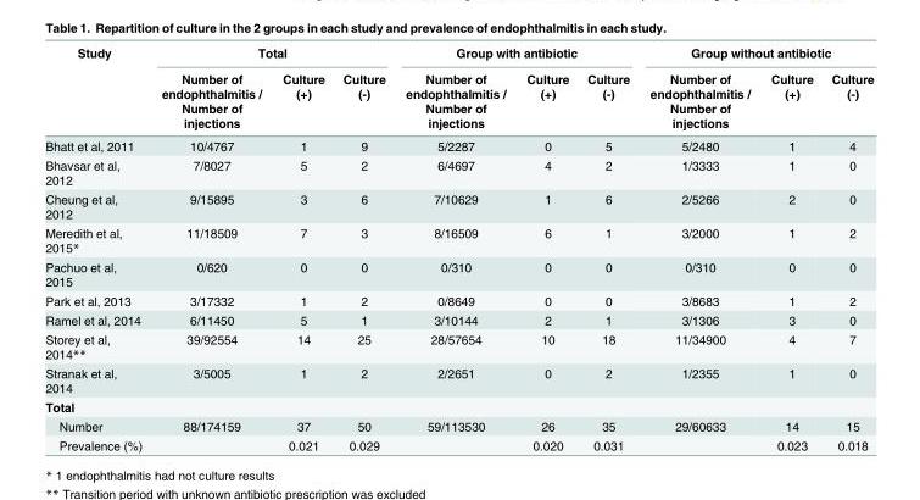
<table><thead><tr><td rowspan="2">Study</td><td colspan="3">Total</td><td colspan="3">Group with antibiotic</td><td colspan="3">Group without antibiotic</td></tr><tr><td>Number of endophthalmitis / Number of injections</td><td>Culture (+)</td><td>Culture (-)</td><td>Number of endophthalmitis / Number of injections</td><td>Culture (+)</td><td>Culture (-)</td><td>Number of endophthalmitis / Number of injections</td><td>Culture (+)</td><td>Culture (-)</td></tr></thead><tbody><tr><td>Bhatt et al, 2011</td><td>10/4767</td><td>1</td><td>9</td><td>5/2287</td><td>0</td><td>5</td><td>5/2480</td><td>1</td><td>4</td></tr><tr><td>Bhavsar et al, 2012</td><td>7/8027</td><td>5</td><td>2</td><td>6/4697</td><td>4</td><td>2</td><td>1/3333</td><td>1</td><td>0</td></tr><tr><td>Cheung et al, 2012</td><td>9/15895</td><td>3</td><td>6</td><td>7/10629</td><td>1</td><td>6</td><td>2/5266</td><td>2</td><td>0</td></tr><tr><td>Meredith et al, 2015*</td><td>11/18509</td><td>7</td><td>3</td><td>8/16509</td><td>6</td><td>1</td><td>3/2000</td><td>1</td><td>2</td></tr><tr><td>Pachuo et al, 2015</td><td>0/620</td><td>0</td><td>0</td><td>0/310</td><td>0</td><td>0</td><td>0/310</td><td>0</td><td>0</td></tr><tr><td>Park et al, 2013</td><td>3/17332</td><td>1</td><td>2</td><td>0/8649</td><td>0</td><td>0</td><td>3/8683</td><td>1</td><td>2</td></tr><tr><td>Ramel et al, 2014</td><td>6/11450</td><td>5</td><td>1</td><td>3/10144</td><td>2</td><td>1</td><td>3/1306</td><td>3</td><td>0</td></tr><tr><td>Storey et al, 2014**</td><td>39/92554</td><td>14</td><td>25</td><td>28/57654</td><td>10</td><td>18</td><td>11/34900</td><td>4</td><td>7</td></tr><tr><td>Stranak et al, 2014</td><td>3/5005</td><td>1</td><td>2</td><td>2/2651</td><td>0</td><td>2</td><td>1/2355</td><td>1</td><td>0</td></tr><tr><td colspan="10">Total</td></tr><tr><td>Number</td><td>88/174159</td><td>37</td><td>50</td><td>59/113530</td><td>26</td><td>35</td><td>29/60633</td><td>14</td><td>15</td></tr><tr><td>Prevalence (%)</td><td></td><td>0.021</td><td>0.029</td><td></td><td>0.020</td><td>0.031</td><td></td><td>0.023</td><td>0.018</td></tr></tbody></table>